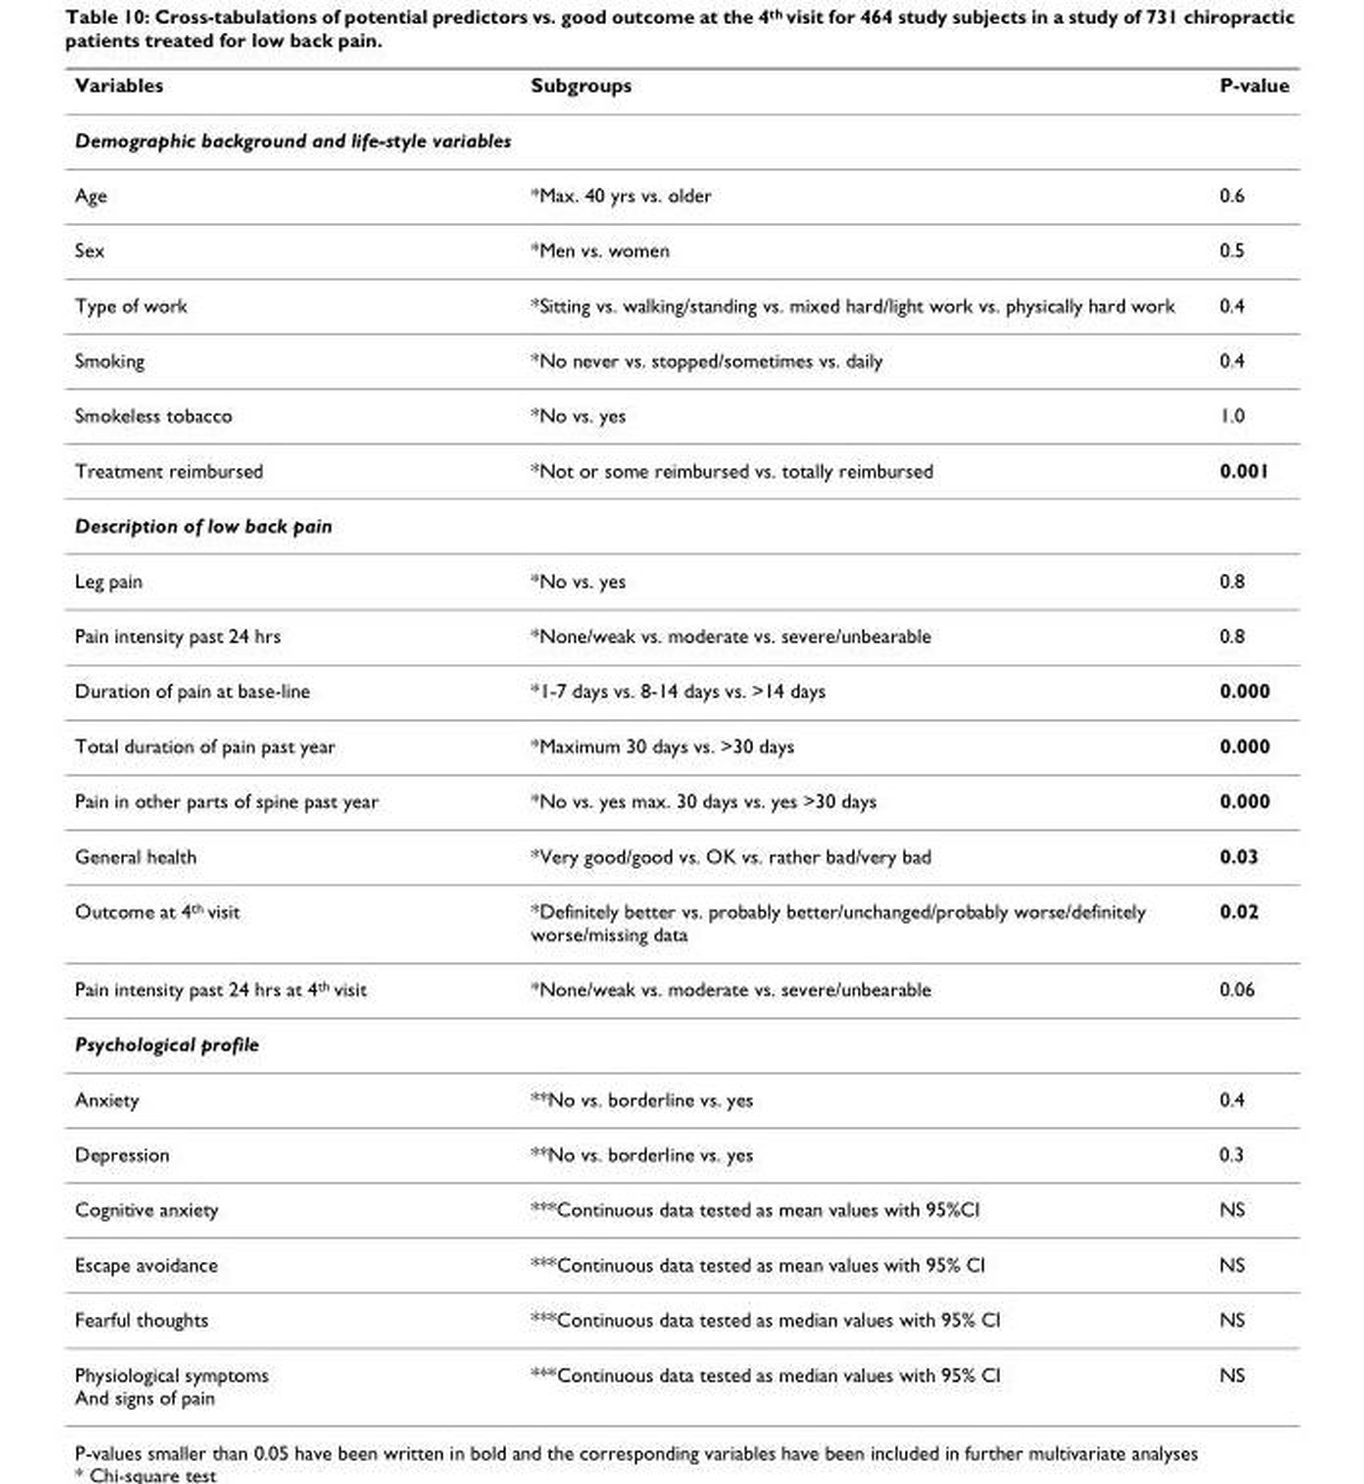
<table><thead><tr><td>Variables</td><td>Subgroups</td><td>P-value</td></tr></thead><tbody><tr><td colspan="3">Demographic background and life-style variables</td></tr><tr><td>Age</td><td>*Max. 40 yrs vs. older</td><td>0.6</td></tr><tr><td>Sex</td><td>*Men vs. women</td><td>0.5</td></tr><tr><td>Type of work</td><td>*Sitting vs. walking/standing vs. mixed hard/light work vs. physically hard work</td><td>0.4</td></tr><tr><td>Smoking</td><td>*No never vs. stopped/sometimes vs. daily</td><td>0.4</td></tr><tr><td>Smokeless tobacco</td><td>*No vs. yes</td><td>1.0</td></tr><tr><td>Treatment reimbursed</td><td>*Not or some reimbursed vs. totally reimbursed</td><td>0.001</td></tr><tr><td colspan="3">Description of low back pain</td></tr><tr><td>Leg pain</td><td>*No vs. yes</td><td>0.8</td></tr><tr><td>Pain intensity past 24 hrs</td><td>*None/weak vs. moderate vs. severe/unbearable</td><td>0.8</td></tr><tr><td>Duration of pain at base-line</td><td>*1-7 days vs. 8-14 days vs. &gt;14 days</td><td>0.000</td></tr><tr><td>Total duration of pain past year</td><td>*Maximum 30 days vs. &gt;30 days</td><td>0.000</td></tr><tr><td>Pain in other parts of spine past year</td><td>*No vs. yes max. 30 days vs. yes &gt;30 days</td><td>0.000</td></tr><tr><td>General health</td><td>*Very good/good vs. OK vs. rather bad/very bad</td><td>0.03</td></tr><tr><td>Outcome at 4th visit</td><td>*Definitely better vs. probably better/unchanged/probably worse/definitely worse/missing data</td><td>0.02</td></tr><tr><td>Pain intensity past 24 hrs at 4th visit</td><td>*None/weak vs. moderate vs. severe/unbearable</td><td>0.06</td></tr><tr><td colspan="3">Psychological profile</td></tr><tr><td>Anxiety</td><td>**No vs. borderline vs. yes</td><td>0.4</td></tr><tr><td>Depression</td><td>**No vs. borderline vs. yes</td><td>0.3</td></tr><tr><td>Cognitive anxiety</td><td>***Continuous data tested as mean values with 95%CI</td><td>NS</td></tr><tr><td>Escape avoidance</td><td>***Continuous data tested as mean values with 95% CI</td><td>NS</td></tr><tr><td>Fearful thoughts</td><td>***Continuous data tested as median values with 95% CI</td><td>NS</td></tr><tr><td>Physiological symptoms And signs of pain</td><td>***Continuous data tested as median values with 95% CI</td><td>NS</td></tr></tbody></table>